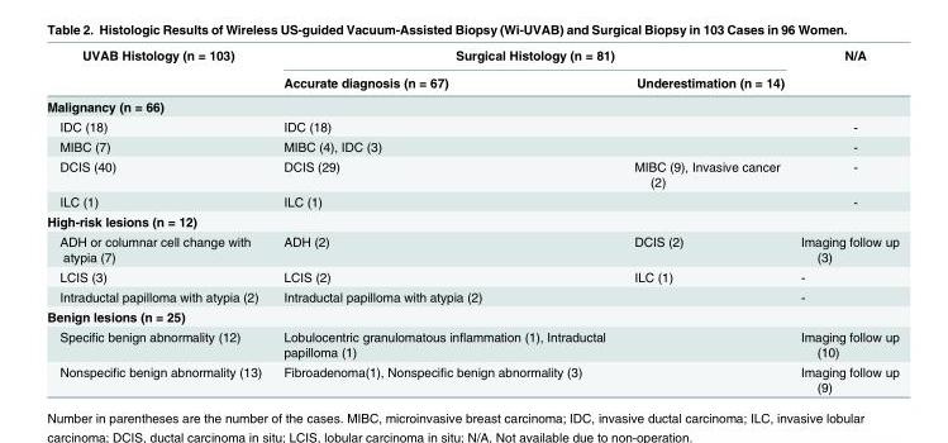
<table><thead><tr><td rowspan="2">UVAB Histology (n = 103)</td><td colspan="2">Surgical Histology (n = 81)</td><td rowspan="2">N/A</td></tr><tr><td>Accurate diagnosis (n = 67)</td><td>Underestimation (n = 14)</td></tr></thead><tbody><tr><td colspan="4">Malignancy (n = 66)</td></tr><tr><td>IDC (18)</td><td>IDC (18)</td><td></td><td>-</td></tr><tr><td>MIBC (7)</td><td>MIBC (4), IDC (3)</td><td></td><td>-</td></tr><tr><td>DCIS (40)</td><td>DCIS (29)</td><td>MIBC (9), Invasive cancer (2)</td><td>-</td></tr><tr><td>ILC (1)</td><td>ILC (1)</td><td></td><td>-</td></tr><tr><td colspan="4">High-risk lesions (n = 12)</td></tr><tr><td>ADH or columnar cell change with atypia (7)</td><td>ADH (2)</td><td>DCIS (2)</td><td>Imaging follow up (3)</td></tr><tr><td>LCIS (3)</td><td>LCIS (2)</td><td>ILC (1)</td><td>-</td></tr><tr><td>Intraductal papilloma with atypia (2)</td><td>Intraductal papilloma with atypia (2)</td><td></td><td>-</td></tr><tr><td colspan="4">Benign lesions (n = 25)</td></tr><tr><td>Specific benign abnormality (12)</td><td>Lobulocentric granulomatous inflammation (1), Intraductal papilloma (1)</td><td></td><td>Imaging follow up (10)</td></tr><tr><td>Nonspecific benign abnormality (13)</td><td>Fibroadenoma(1), Nonspecific benign abnormality (3)</td><td></td><td>Imaging follow up (9)</td></tr></tbody></table>